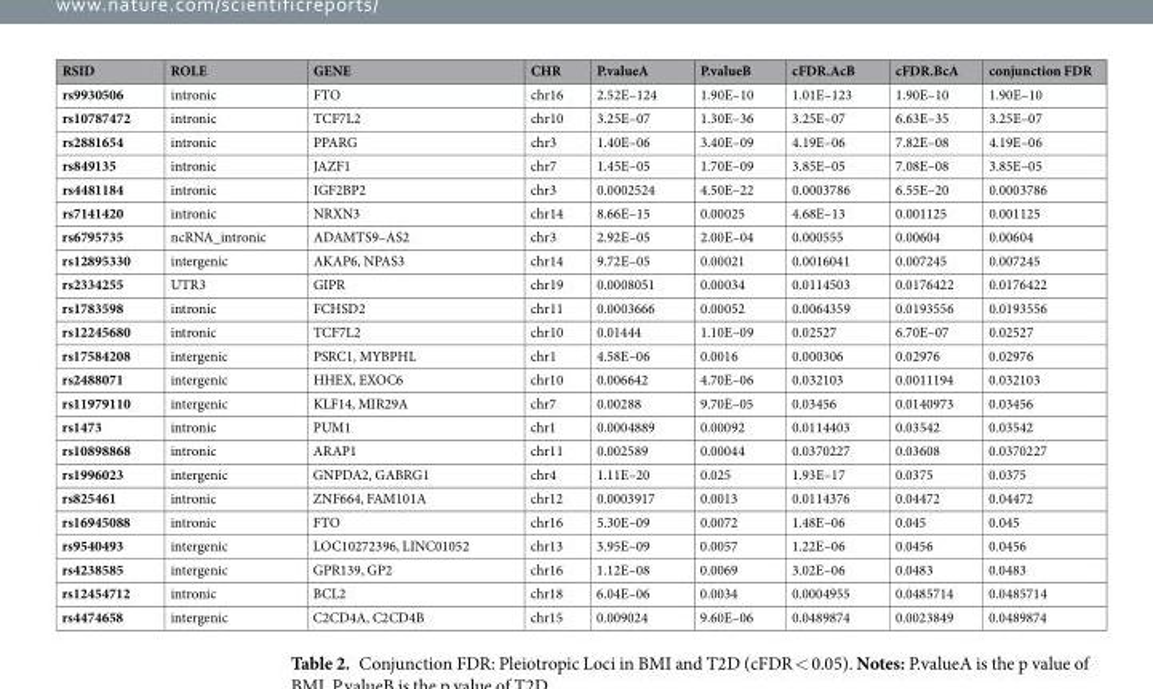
<table><thead><tr><td>RSID</td><td>ROLE</td><td>GENE</td><td>CHR</td><td>P.valueA</td><td>P.valueB</td><td>cFDR.AcB</td><td>cFDR.BcA</td><td>conjunction FDR</td></tr></thead><tbody><tr><td>rs9930506</td><td>intronic</td><td>FTO</td><td>chr16</td><td>2.52E–124</td><td>1.90E–10</td><td>1.01E–123</td><td>1.90E–10</td><td>1.90E–10</td></tr><tr><td>rs10787472</td><td>intronic</td><td>TCF7L2</td><td>chr10</td><td>3.25E–07</td><td>1.30E–36</td><td>3.25E–07</td><td>6.63E–35</td><td>3.25E–07</td></tr><tr><td>rs2881654</td><td>intronic</td><td>PPARG</td><td>chr3</td><td>1.40E–06</td><td>3.40E–09</td><td>4.19E–06</td><td>7.82E–08</td><td>4.19E–06</td></tr><tr><td>rs849135</td><td>intronic</td><td>JAZF1</td><td>chr7</td><td>1.45E–05</td><td>1.70E–09</td><td>3.85E–05</td><td>7.08E–08</td><td>3.85E–05</td></tr><tr><td>rs4481184</td><td>intronic</td><td>IGF2BP2</td><td>chr3</td><td>0.0002524</td><td>4.50E–22</td><td>0.0003786</td><td>6.55E–20</td><td>0.0003786</td></tr><tr><td>rs7141420</td><td>intronic</td><td>NRXN3</td><td>chr14</td><td>8.66E–15</td><td>0.00025</td><td>4.68E–13</td><td>0.001125</td><td>0.001125</td></tr><tr><td>rs6795735</td><td>ncRNA_intronic</td><td>ADAMTS9–AS2</td><td>chr3</td><td>2.92E–05</td><td>2.00E–04</td><td>0.000555</td><td>0.00604</td><td>0.00604</td></tr><tr><td>rs12895330</td><td>intergenic</td><td>AKAP6, NPAS3</td><td>chr14</td><td>9.72E–05</td><td>0.00021</td><td>0.0016041</td><td>0.007245</td><td>0.007245</td></tr><tr><td>rs2334255</td><td>UTR3</td><td>GIPR</td><td>chr19</td><td>0.0008051</td><td>0.00034</td><td>0.0114503</td><td>0.0176422</td><td>0.0176422</td></tr><tr><td>rs1783598</td><td>intronic</td><td>FCHSD2</td><td>chr11</td><td>0.0003666</td><td>0.00052</td><td>0.0064359</td><td>0.0193556</td><td>0.0193556</td></tr><tr><td>rs12245680</td><td>intronic</td><td>TCF7L2</td><td>chr10</td><td>0.01444</td><td>1.10E–09</td><td>0.02527</td><td>6.70E–07</td><td>0.02527</td></tr><tr><td>rs17584208</td><td>intergenic</td><td>PSRC1, MYBPHL</td><td>chr1</td><td>4.58E–06</td><td>0.0016</td><td>0.000306</td><td>0.02976</td><td>0.02976</td></tr><tr><td>rs2488071</td><td>intergenic</td><td>HHEX, EXOC6</td><td>chr10</td><td>0.006642</td><td>4.70E–06</td><td>0.032103</td><td>0.0011194</td><td>0.032103</td></tr><tr><td>rs11979110</td><td>intergenic</td><td>KLF14, MIR29A</td><td>chr7</td><td>0.00288</td><td>9.70E–05</td><td>0.03456</td><td>0.0140973</td><td>0.03456</td></tr><tr><td>rs1473</td><td>intronic</td><td>PUM1</td><td>chr1</td><td>0.0004889</td><td>0.00092</td><td>0.0114403</td><td>0.03542</td><td>0.03542</td></tr><tr><td>rs10898868</td><td>intronic</td><td>ARAP1</td><td>chr11</td><td>0.002589</td><td>0.00044</td><td>0.0370227</td><td>0.03608</td><td>0.0370227</td></tr><tr><td>rs1996023</td><td>intergenic</td><td>GNPDA2, GABRG1</td><td>chr4</td><td>1.11E–20</td><td>0.025</td><td>1.93E–17</td><td>0.0375</td><td>0.0375</td></tr><tr><td>rs825461</td><td>intronic</td><td>ZNF664, FAM101A</td><td>chr12</td><td>0.0003917</td><td>0.0013</td><td>0.0114376</td><td>0.04472</td><td>0.04472</td></tr><tr><td>rs16945088</td><td>intronic</td><td>FTO</td><td>chr16</td><td>5.30E–09</td><td>0.0072</td><td>1.48E–06</td><td>0.045</td><td>0.045</td></tr><tr><td>rs9540493</td><td>intergenic</td><td>LOC10272396, LINC01052</td><td>chr13</td><td>3.95E–09</td><td>0.0057</td><td>1.22E–06</td><td>0.0456</td><td>0.0456</td></tr><tr><td>rs4238585</td><td>intergenic</td><td>GPR139, GP2</td><td>chr16</td><td>1.12E–08</td><td>0.0069</td><td>3.02E–06</td><td>0.0483</td><td>0.0483</td></tr><tr><td>rs12454712</td><td>intronic</td><td>BCL2</td><td>chr18</td><td>6.04E–06</td><td>0.0034</td><td>0.0004955</td><td>0.0485714</td><td>0.0485714</td></tr><tr><td>rs4474658</td><td>intergenic</td><td>C2CD4A, C2CD4B</td><td>chr15</td><td>0.009024</td><td>9.60E–06</td><td>0.0489874</td><td>0.0023849</td><td>0.0489874</td></tr></tbody></table>